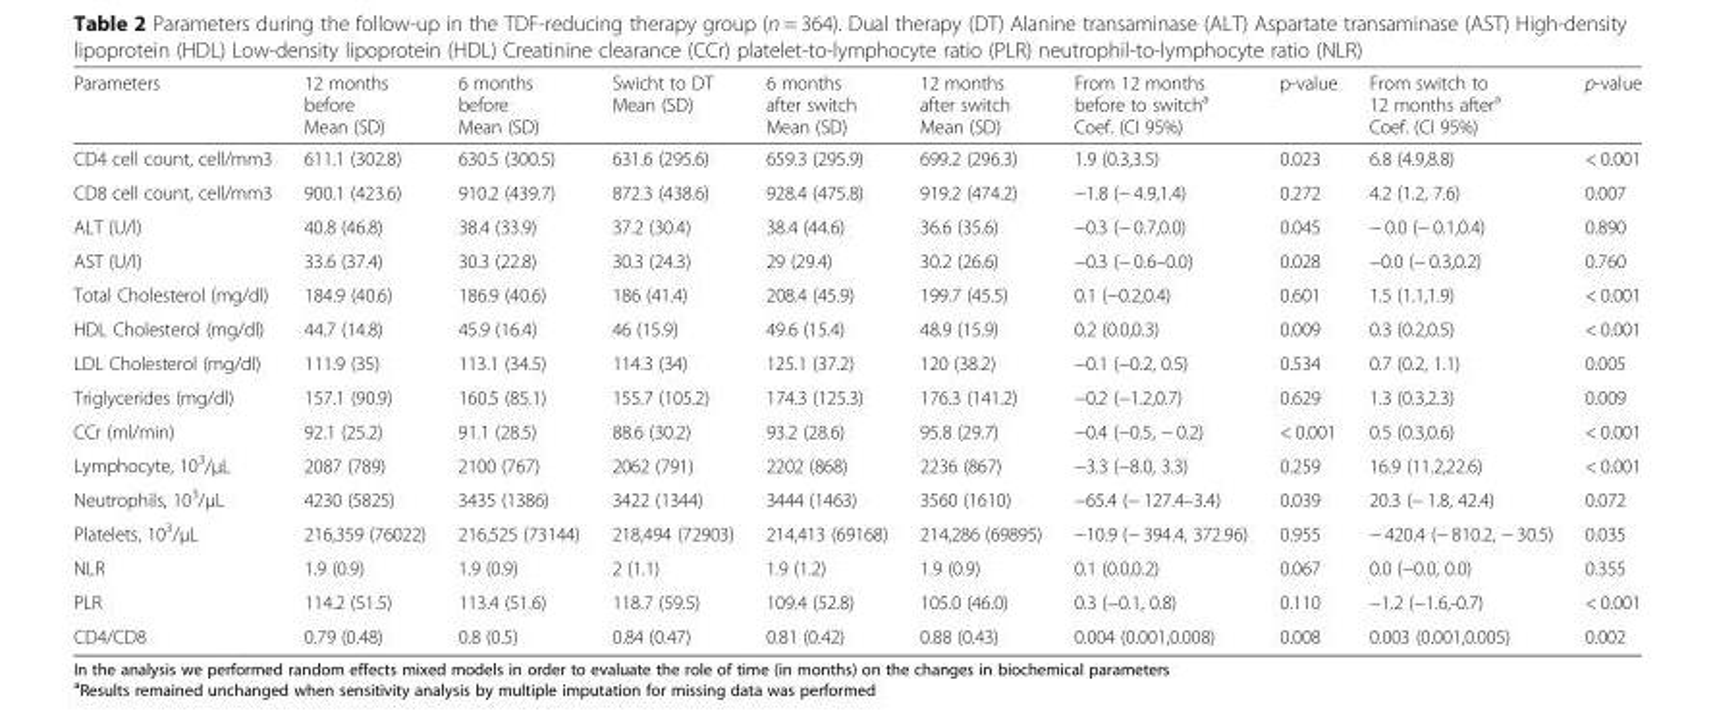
<table><thead><tr><td>Parameters</td><td>12 months before Mean (SD)</td><td>6 months before Mean (SD)</td><td>Swicht to DT Mean (SD)</td><td>6 months after switch Mean (SD)</td><td>12 months after switch Mean (SD)</td><td>From 12 months before to switch<sup>a</sup> Coef. (CI 95%)</td><td>p-value</td><td>From switch to 12 months after<sup>a</sup> Coef. (CI 95%)</td><td>p-value</td></tr></thead><tbody><tr><td>CD4 cell count, cell/mm3</td><td>611.1 (302.8)</td><td>630.5 (300.5)</td><td>631.6 (295.6)</td><td>659.3 (295.9)</td><td>699.2 (296.3)</td><td>1.9 (0.3,3.5)</td><td>0.023</td><td>6.8 (4.9,8.8)</td><td>&lt; 0.001</td></tr><tr><td>CD8 cell count, cell/mm3</td><td>900.1 (423.6)</td><td>910.2 (439.7)</td><td>872.3 (438.6)</td><td>928.4 (475.8)</td><td>919.2 (474.2)</td><td>−1.8 (− 4.9,1.4)</td><td>0.272</td><td>4.2 (1.2, 7.6)</td><td>0.007</td></tr><tr><td>ALT (U/l)</td><td>40.8 (46.8)</td><td>38.4 (33.9)</td><td>37.2 (30.4)</td><td>38.4 (44.6)</td><td>36.6 (35.6)</td><td>−0.3 (− 0.7,0.0)</td><td>0.045</td><td>− 0.0 (− 0.1,0.4)</td><td>0.890</td></tr><tr><td>AST (U/l)</td><td>33.6 (37.4)</td><td>30.3 (22.8)</td><td>30.3 (24.3)</td><td>29 (29.4)</td><td>30.2 (26.6)</td><td>−0.3 (− 0.6–0.0)</td><td>0.028</td><td>−0.0 (− 0.3,0.2)</td><td>0.760</td></tr><tr><td>Total Cholesterol (mg/dl)</td><td>184.9 (40.6)</td><td>186.9 (40.6)</td><td>186 (41.4)</td><td>208.4 (45.9)</td><td>199.7 (45.5)</td><td>0.1 (−0.2,0.4)</td><td>0.601</td><td>1.5 (1.1,1.9)</td><td>&lt; 0.001</td></tr><tr><td>HDL Cholesterol (mg/dl)</td><td>44.7 (14.8)</td><td>45.9 (16.4)</td><td>46 (15.9)</td><td>49.6 (15.4)</td><td>48.9 (15.9)</td><td>0.2 (0.0,0.3)</td><td>0.009</td><td>0.3 (0.2,0.5)</td><td>&lt; 0.001</td></tr><tr><td>LDL Cholesterol (mg/dl)</td><td>111.9 (35)</td><td>113.1 (34.5)</td><td>114.3 (34)</td><td>125.1 (37.2)</td><td>120 (38.2)</td><td>−0.1 (−0.2, 0.5)</td><td>0.534</td><td>0.7 (0.2, 1.1)</td><td>0.005</td></tr><tr><td>Triglycerides (mg/dl)</td><td>157.1 (90.9)</td><td>160.5 (85.1)</td><td>155.7 (105.2)</td><td>174.3 (125.3)</td><td>176.3 (141.2)</td><td>−0.2 (−1.2,0.7)</td><td>0.629</td><td>1.3 (0.3,2.3)</td><td>0.009</td></tr><tr><td>CCr (ml/min)</td><td>92.1 (25.2)</td><td>91.1 (28.5)</td><td>88.6 (30.2)</td><td>93.2 (28.6)</td><td>95.8 (29.7)</td><td>−0.4 (−0.5, − 0.2)</td><td>&lt; 0.001</td><td>0.5 (0.3,0.6)</td><td>&lt; 0.001</td></tr><tr><td>Lymphocyte, 10<sup>3</sup>/μL</td><td>2087 (789)</td><td>2100 (767)</td><td>2062 (791)</td><td>2202 (868)</td><td>2236 (867)</td><td>−3.3 (−8.0, 3.3)</td><td>0.259</td><td>16.9 (11.2,22.6)</td><td>&lt; 0.001</td></tr><tr><td>Neutrophils, 10<sup>3</sup>/μL</td><td>4230 (5825)</td><td>3435 (1386)</td><td>3422 (1344)</td><td>3444 (1463)</td><td>3560 (1610)</td><td>−65.4 (− 127.4–3.4)</td><td>0.039</td><td>20.3 (− 1.8, 42.4)</td><td>0.072</td></tr><tr><td>Platelets, 10<sup>3</sup>/μL</td><td>216,359 (76022)</td><td>216,525 (73144)</td><td>218,494 (72903)</td><td>214,413 (69168)</td><td>214,286 (69895)</td><td>−10.9 (− 394.4, 372.96)</td><td>0.955</td><td>− 420.4 (− 810.2, − 30.5)</td><td>0.035</td></tr><tr><td>NLR</td><td>1.9 (0.9)</td><td>1.9 (0.9)</td><td>2 (1.1)</td><td>1.9 (1.2)</td><td>1.9 (0.9)</td><td>0.1 (0.0,0.2)</td><td>0.067</td><td>0.0 (−0.0, 0.0)</td><td>0.355</td></tr><tr><td>PLR</td><td>114.2 (51.5)</td><td>113.4 (51.6)</td><td>118.7 (59.5)</td><td>109.4 (52.8)</td><td>105.0 (46.0)</td><td>0.3 (−0.1, 0.8)</td><td>0.110</td><td>−1.2 (−1.6,-0.7)</td><td>&lt; 0.001</td></tr><tr><td>CD4/CD8</td><td>0.79 (0.48)</td><td>0.8 (0.5)</td><td>0.84 (0.47)</td><td>0.81 (0.42)</td><td>0.88 (0.43)</td><td>0.004 (0.001,0.008)</td><td>0.008</td><td>0.003 (0.001,0.005)</td><td>0.002</td></tr></tbody></table>